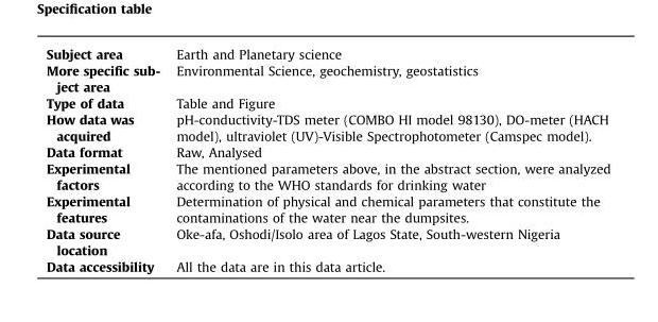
<table><tbody><tr><td>Subject area</td><td>Earth and Planetary science</td></tr><tr><td>More specific sub- ject area</td><td>Environmental Science, geochemistry, geostatistics</td></tr><tr><td>Type of data</td><td>Table and Figure</td></tr><tr><td>How data was acquired</td><td>pH-conductivity-TDS meter (COMBO HI model 98130), DO-meter (HACH model), ultraviolet (UV)-Visible Spectrophotometer (Camspec model).</td></tr><tr><td>Data format</td><td>Raw, Analysed</td></tr><tr><td>Experimental factors</td><td>The mentioned parameters above, in the abstract section, were analyzed according to the WHO standards for drinking water</td></tr><tr><td>Experimental features</td><td>Determination of physical and chemical parameters that constitute the contaminations of the water near the dumpsites.</td></tr><tr><td>Data source location</td><td>Oke-afa, Oshodi/Isolo area of Lagos State, South-western Nigeria</td></tr><tr><td>Data accessibility</td><td>All the data are in this data article.</td></tr></tbody></table>